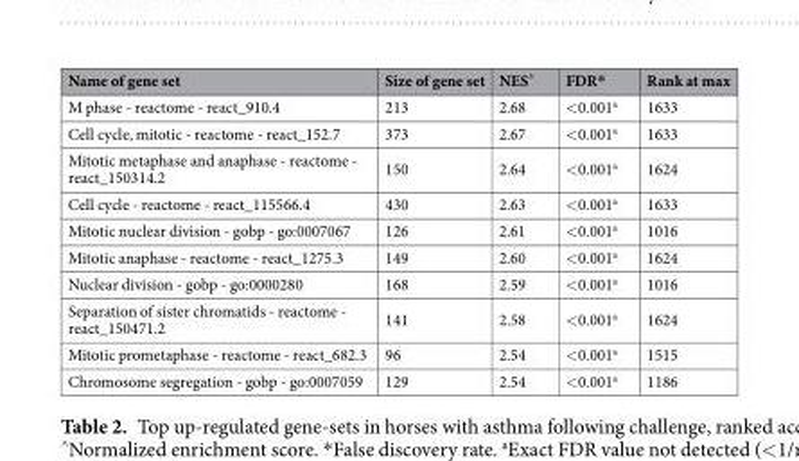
<table><thead><tr><td>Name of gene set</td><td>Size of gene set</td><td>NES<sup>^</sup></td><td>FDR*</td><td>Rank at max</td></tr></thead><tbody><tr><td>M phase - reactome - react_910.4</td><td>213</td><td>2.68</td><td>&lt;0.001<sup>a</sup></td><td>1633</td></tr><tr><td>Cell cycle, mitotic - reactome - react_152.7</td><td>373</td><td>2.67</td><td>&lt;0.001<sup>a</sup></td><td>1633</td></tr><tr><td>Mitotic metaphase and anaphase - reactome - react_150314.2</td><td>150</td><td>2.64</td><td>&lt;0.001<sup>a</sup></td><td>1624</td></tr><tr><td>Cell cycle - reactome - react_115566.4</td><td>430</td><td>2.63</td><td>&lt;0.001<sup>a</sup></td><td>1633</td></tr><tr><td>Mitotic nuclear division - gobp - go:0007067</td><td>126</td><td>2.61</td><td>&lt;0.001<sup>a</sup></td><td>1016</td></tr><tr><td>Mitotic anaphase - reactome - react_1275.3</td><td>149</td><td>2.60</td><td>&lt;0.001<sup>a</sup></td><td>1624</td></tr><tr><td>Nuclear division - gobp - go:0000280</td><td>168</td><td>2.59</td><td>&lt;0.001<sup>a</sup></td><td>1016</td></tr><tr><td>Separation of sister chromatids - reactome - react_150471.2</td><td>141</td><td>2.58</td><td>&lt;0.001<sup>a</sup></td><td>1624</td></tr><tr><td>Mitotic prometaphase - reactome - react_682.3</td><td>96</td><td>2.54</td><td>&lt;0.001<sup>a</sup></td><td>1515</td></tr><tr><td>Chromosome segregation - gobp - go:0007059</td><td>129</td><td>2.54</td><td>&lt;0.001<sup>a</sup></td><td>1186</td></tr></tbody></table>